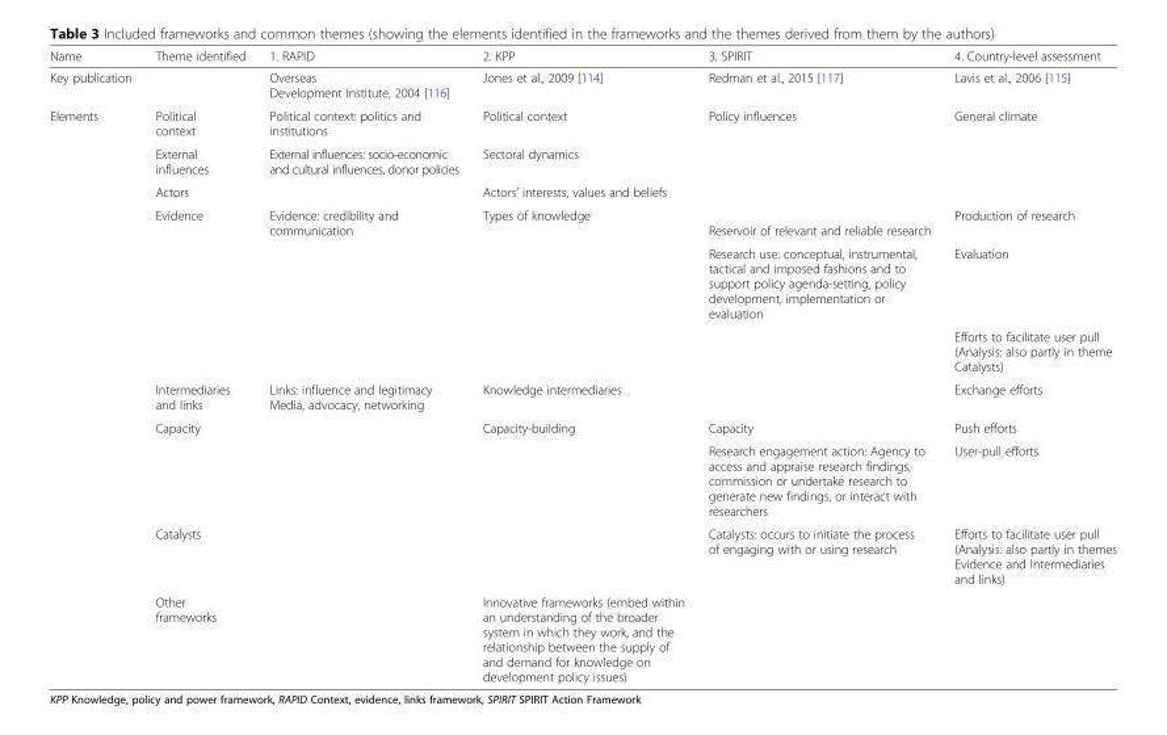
<table><thead><tr><td>Name</td><td>Theme identified</td><td>1. RAPID</td><td>2. KPP</td><td>3. SPIRIT</td><td>4. Country-level assessment</td></tr></thead><tbody><tr><td>Key publication</td><td></td><td>Overseas Development Institute, 2004 [116]</td><td>Jones et al., 2009 [114]</td><td>Redman et al., 2015 [117]</td><td>Lavis et al., 2006 [115]</td></tr><tr><td rowspan="11">Elements</td><td>Political context</td><td>Political context: politics and institutions</td><td>Political context</td><td>Policy influences</td><td rowspan="3">General climate</td></tr><tr><td>External influences</td><td>External influences: socio-economic and cultural influences, donor policies</td><td>Sectoral dynamics</td><td></td></tr><tr><td>Actors</td><td></td><td>Actors’ interests, values and beliefs</td><td></td></tr><tr><td rowspan="3">Evidence</td><td>Evidence: credibility and communication</td><td>Types of knowledge</td><td>Reservoir of relevant and reliable research</td><td>Production of research</td></tr><tr><td></td><td></td><td>Research use: conceptual, instrumental, tactical and imposed fashions and to support policy agenda-setting, policy development, implementation or evaluation</td><td>Evaluation</td></tr><tr><td></td><td></td><td></td><td>Efforts to facilitate user pull (Analysis: also partly in theme Catalysts)</td></tr><tr><td>Intermediaries and links</td><td rowspan="2">Links: influence and legitimacy Media, advocacy, networking</td><td>Knowledge intermediaries</td><td></td><td>Exchange efforts</td></tr><tr><td rowspan="2">Capacity</td><td rowspan="2">Capacity-building</td><td>Capacity</td><td>Push efforts</td></tr><tr><td></td><td>Research engagement action: Agency to access and appraise research findings, commission or undertake research to generate new findings, or interact with researchers</td><td>User-pull efforts</td></tr><tr><td>Catalysts</td><td></td><td></td><td>Catalysts: occurs to initiate the process of engaging with or using research</td><td>Efforts to facilitate user pull (Analysis: also partly in themes Evidence and Intermediaries and links)</td></tr><tr><td>Other frameworks</td><td></td><td>Innovative frameworks (embed within an understanding of the broader system in which they work, and the relationship between the supply of and demand for knowledge on development policy issues)</td><td></td><td></td></tr></tbody></table>